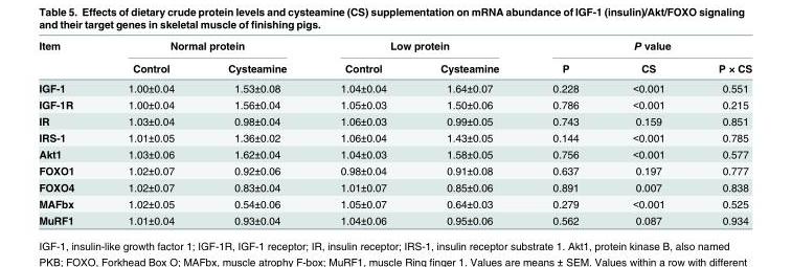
<table><thead><tr><td rowspan="2">Item</td><td colspan="2">Normal protein</td><td colspan="2">Low protein</td><td colspan="3">P value</td></tr><tr><td>Control</td><td>Cysteamine</td><td>Control</td><td>Cysteamine</td><td>P</td><td>CS</td><td>P × CS</td></tr></thead><tbody><tr><td>IGF-1</td><td>1.00±0.04</td><td>1.53±0.08</td><td>1.04±0.04</td><td>1.64±0.07</td><td>0.228</td><td>&lt;0.001</td><td>0.551</td></tr><tr><td>IGF-1R</td><td>1.00±0.04</td><td>1.56±0.04</td><td>1.05±0.03</td><td>1.50±0.06</td><td>0.786</td><td>&lt;0.001</td><td>0.215</td></tr><tr><td>IR</td><td>1.03±0.04</td><td>0.98±0.04</td><td>1.06±0.03</td><td>0.99±0.05</td><td>0.743</td><td>0.159</td><td>0.851</td></tr><tr><td>IRS-1</td><td>1.01±0.05</td><td>1.36±0.02</td><td>1.06±0.04</td><td>1.43±0.05</td><td>0.144</td><td>&lt;0.001</td><td>0.785</td></tr><tr><td>Akt1</td><td>1.03±0.06</td><td>1.62±0.04</td><td>1.04±0.03</td><td>1.58±0.05</td><td>0.756</td><td>&lt;0.001</td><td>0.577</td></tr><tr><td>FOXO1</td><td>1.02±0.07</td><td>0.92±0.06</td><td>0.98±0.04</td><td>0.91±0.08</td><td>0.637</td><td>0.197</td><td>0.777</td></tr><tr><td>FOXO4</td><td>1.02±0.07</td><td>0.83±0.04</td><td>1.01±0.07</td><td>0.85±0.06</td><td>0.891</td><td>0.007</td><td>0.838</td></tr><tr><td>MAFbx</td><td>1.02±0.05</td><td>0.54±0.06</td><td>1.05±0.07</td><td>0.64±0.03</td><td>0.279</td><td>&lt;0.001</td><td>0.525</td></tr><tr><td>MuRF1</td><td>1.01±0.04</td><td>0.93±0.04</td><td>1.04±0.06</td><td>0.95±0.06</td><td>0.562</td><td>0.087</td><td>0.934</td></tr></tbody></table>